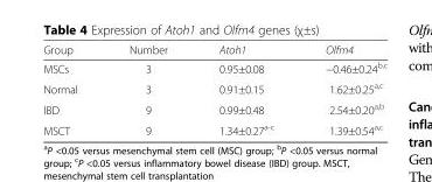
<table><thead><tr><td>Group</td><td>Number</td><td>Atoh1</td><td>Olfm4</td></tr></thead><tbody><tr><td>MSCs</td><td>3</td><td>0.95±0.08</td><td>−0.46±0.24<sup>b,c</sup></td></tr><tr><td>Normal</td><td>3</td><td>0.91±0.15</td><td>1.62±0.25<sup>a,c</sup></td></tr><tr><td>IBD</td><td>9</td><td>0.99±0.48</td><td>2.54±0.20<sup>a,b</sup></td></tr><tr><td>MSCT</td><td>9</td><td>1.34±0.27<sup>a-c</sup></td><td>1.39±0.54<sup>a,c</sup></td></tr></tbody></table>